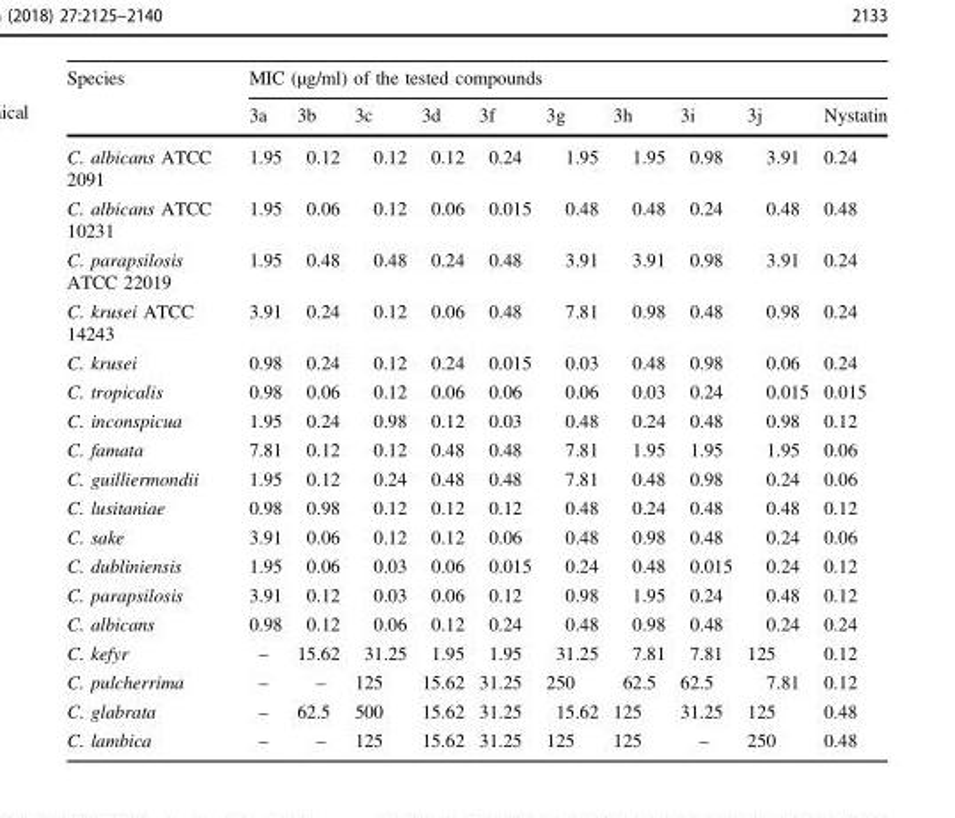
<table><thead><tr><td rowspan="2">Species</td><td colspan="10">MIC (µg/ml) of the tested compounds</td></tr><tr><td>3a</td><td>3b</td><td>3c</td><td>3d</td><td>3f</td><td>3g</td><td>3h</td><td>3i</td><td>3j</td><td>Nystatin</td></tr></thead><tbody><tr><td>C. albicans ATCC 2091</td><td>1.95</td><td>0.12</td><td>0.12</td><td>0.12</td><td>0.24</td><td>1.95</td><td>1.95</td><td>0.98</td><td>3.91</td><td>0.24</td></tr><tr><td>C. albicans ATCC 10231</td><td>1.95</td><td>0.06</td><td>0.12</td><td>0.06</td><td>0.015</td><td>0.48</td><td>0.48</td><td>0.24</td><td>0.48</td><td>0.48</td></tr><tr><td>C. parapsilosis ATCC 22019</td><td>1.95</td><td>0.48</td><td>0.48</td><td>0.24</td><td>0.48</td><td>3.91</td><td>3.91</td><td>0.98</td><td>3.91</td><td>0.24</td></tr><tr><td>C. krusei ATCC 14243</td><td>3.91</td><td>0.24</td><td>0.12</td><td>0.06</td><td>0.48</td><td>7.81</td><td>0.98</td><td>0.48</td><td>0.98</td><td>0.24</td></tr><tr><td>C. krusei</td><td>0.98</td><td>0.24</td><td>0.12</td><td>0.24</td><td>0.015</td><td>0.03</td><td>0.48</td><td>0.98</td><td>0.06</td><td>0.24</td></tr><tr><td>C. tropicalis</td><td>0.98</td><td>0.06</td><td>0.12</td><td>0.06</td><td>0.06</td><td>0.06</td><td>0.03</td><td>0.24</td><td>0.015</td><td>0.015</td></tr><tr><td>C. inconspicua</td><td>1.95</td><td>0.24</td><td>0.98</td><td>0.12</td><td>0.03</td><td>0.48</td><td>0.24</td><td>0.48</td><td>0.98</td><td>0.12</td></tr><tr><td>C. famata</td><td>7.81</td><td>0.12</td><td>0.12</td><td>0.48</td><td>0.48</td><td>7.81</td><td>1.95</td><td>1.95</td><td>1.95</td><td>0.06</td></tr><tr><td>C. guilliermondii</td><td>1.95</td><td>0.12</td><td>0.24</td><td>0.48</td><td>0.48</td><td>7.81</td><td>0.48</td><td>0.98</td><td>0.24</td><td>0.06</td></tr><tr><td>C. lusitaniae</td><td>0.98</td><td>0.98</td><td>0.12</td><td>0.12</td><td>0.12</td><td>0.48</td><td>0.24</td><td>0.48</td><td>0.48</td><td>0.12</td></tr><tr><td>C. sake</td><td>3.91</td><td>0.06</td><td>0.12</td><td>0.12</td><td>0.06</td><td>0.48</td><td>0.98</td><td>0.48</td><td>0.24</td><td>0.06</td></tr><tr><td>C. dubliniensis</td><td>1.95</td><td>0.06</td><td>0.03</td><td>0.06</td><td>0.015</td><td>0.24</td><td>0.48</td><td>0.015</td><td>0.24</td><td>0.12</td></tr><tr><td>C. parapsilosis</td><td>3.91</td><td>0.12</td><td>0.03</td><td>0.06</td><td>0.12</td><td>0.98</td><td>1.95</td><td>0.24</td><td>0.48</td><td>0.12</td></tr><tr><td>C. albicans</td><td>0.98</td><td>0.12</td><td>0.06</td><td>0.12</td><td>0.24</td><td>0.48</td><td>0.98</td><td>0.48</td><td>0.24</td><td>0.24</td></tr><tr><td>C. kefyr</td><td>–</td><td>15.62</td><td>31.25</td><td>1.95</td><td>1.95</td><td>31.25</td><td>7.81</td><td>7.81</td><td>125</td><td>0.12</td></tr><tr><td>C. pulcherrima</td><td>–</td><td>–</td><td>125</td><td>15.62</td><td>31.25</td><td>250</td><td>62.5</td><td>62.5</td><td>7.81</td><td>0.12</td></tr><tr><td>C. glabrata</td><td>–</td><td>62.5</td><td>500</td><td>15.62</td><td>31.25</td><td>15.62</td><td>125</td><td>31.25</td><td>125</td><td>0.48</td></tr><tr><td>C. lambica</td><td>–</td><td>–</td><td>125</td><td>15.62</td><td>31.25</td><td>125</td><td>125</td><td>–</td><td>250</td><td>0.48</td></tr></tbody></table>